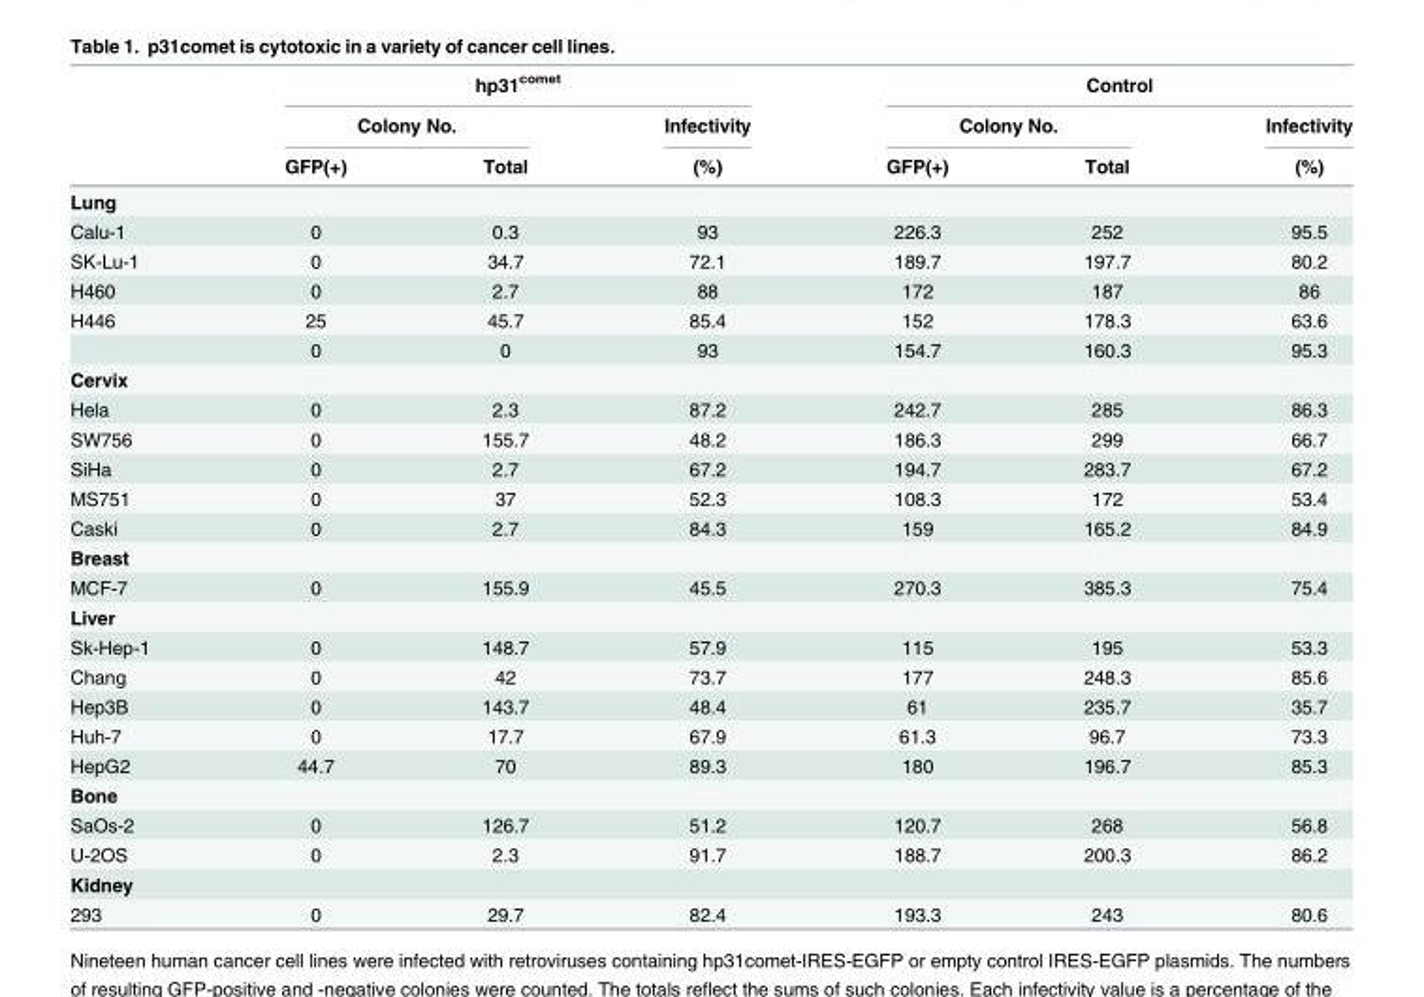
<table><thead><tr><td rowspan="3"></td><td colspan="3">hp31<sup>comet</sup></td><td colspan="3">Control</td></tr><tr><td colspan="2">Colony No.</td><td rowspan="2">Infectivity (%)</td><td colspan="2">Colony No.</td><td rowspan="2">Infectivity (%)</td></tr><tr><td>GFP(+)</td><td>Total</td><td>GFP(+)</td><td>Total</td></tr></thead><tbody><tr><td colspan="7">Lung</td></tr><tr><td>Calu-1</td><td>0</td><td>0.3</td><td>93</td><td>226.3</td><td>252</td><td>95.5</td></tr><tr><td>SK-Lu-1</td><td>0</td><td>34.7</td><td>72.1</td><td>189.7</td><td>197.7</td><td>80.2</td></tr><tr><td>H460</td><td>0</td><td>2.7</td><td>88</td><td>172</td><td>187</td><td>86</td></tr><tr><td rowspan="2">H446</td><td>25</td><td>45.7</td><td>85.4</td><td>152</td><td>178.3</td><td>63.6</td></tr><tr><td>0</td><td>0</td><td>93</td><td>154.7</td><td>160.3</td><td>95.3</td></tr><tr><td colspan="7">Cervix</td></tr><tr><td>Hela</td><td>0</td><td>2.3</td><td>87.2</td><td>242.7</td><td>285</td><td>86.3</td></tr><tr><td>SW756</td><td>0</td><td>155.7</td><td>48.2</td><td>186.3</td><td>299</td><td>66.7</td></tr><tr><td>SiHa</td><td>0</td><td>2.7</td><td>67.2</td><td>194.7</td><td>283.7</td><td>67.2</td></tr><tr><td>MS751</td><td>0</td><td>37</td><td>52.3</td><td>108.3</td><td>172</td><td>53.4</td></tr><tr><td>Caski</td><td>0</td><td>2.7</td><td>84.3</td><td>159</td><td>165.2</td><td>84.9</td></tr><tr><td colspan="7">Breast</td></tr><tr><td>MCF-7</td><td>0</td><td>155.9</td><td>45.5</td><td>270.3</td><td>385.3</td><td>75.4</td></tr><tr><td colspan="7">Liver</td></tr><tr><td>Sk-Hep-1</td><td>0</td><td>148.7</td><td>57.9</td><td>115</td><td>195</td><td>53.3</td></tr><tr><td>Chang</td><td>0</td><td>42</td><td>73.7</td><td>177</td><td>248.3</td><td>85.6</td></tr><tr><td>Hep3B</td><td>0</td><td>143.7</td><td>48.4</td><td>61</td><td>235.7</td><td>35.7</td></tr><tr><td>Huh-7</td><td>0</td><td>17.7</td><td>67.9</td><td>61.3</td><td>96.7</td><td>73.3</td></tr><tr><td>HepG2</td><td>44.7</td><td>70</td><td>89.3</td><td>180</td><td>196.7</td><td>85.3</td></tr><tr><td colspan="7">Bone</td></tr><tr><td>SaOs-2</td><td>0</td><td>126.7</td><td>51.2</td><td>120.7</td><td>268</td><td>56.8</td></tr><tr><td>U-2OS</td><td>0</td><td>2.3</td><td>91.7</td><td>188.7</td><td>200.3</td><td>86.2</td></tr><tr><td colspan="7">Kidney</td></tr><tr><td>293</td><td>0</td><td>29.7</td><td>82.4</td><td>193.3</td><td>243</td><td>80.6</td></tr></tbody></table>